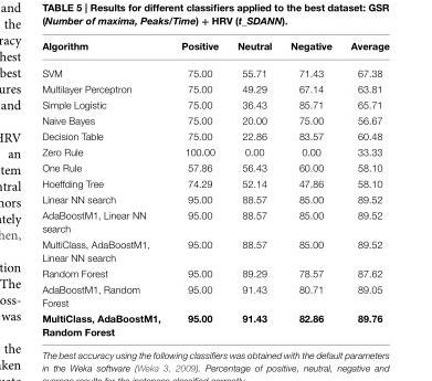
<table><thead><tr><td>Algorithm</td><td>Positive</td><td>Neutral</td><td>Negative</td><td>Average</td></tr></thead><tbody><tr><td>SVM</td><td>75.00</td><td>55.71</td><td>71.43</td><td>67.38</td></tr><tr><td>Multilayer Perceptron</td><td>75.00</td><td>49.29</td><td>67.14</td><td>63.81</td></tr><tr><td>Simple Logistic</td><td>75.00</td><td>36.43</td><td>85.71</td><td>65.71</td></tr><tr><td>Naive Bayes</td><td>75.00</td><td>20.00</td><td>75.00</td><td>56.67</td></tr><tr><td>Decision Table</td><td>75.00</td><td>22.86</td><td>83.57</td><td>60.48</td></tr><tr><td>Zero Rule</td><td>100.00</td><td>0.00</td><td>0.00</td><td>33.33</td></tr><tr><td>One Rule</td><td>57.86</td><td>56.43</td><td>60.00</td><td>58.10</td></tr><tr><td>Hoeffding Tree</td><td>74.29</td><td>52.14</td><td>47.86</td><td>58.10</td></tr><tr><td>Linear NN search</td><td>95.00</td><td>88.57</td><td>85.00</td><td>89.52</td></tr><tr><td>AdaBoostM1, Linear NN search</td><td>95.00</td><td>88.57</td><td>85.00</td><td>89.52</td></tr><tr><td>MultiClass, AdaBoostM1, Linear NN search</td><td>95.00</td><td>88.57</td><td>85.00</td><td>89.52</td></tr><tr><td>Random Forest</td><td>95.00</td><td>89.29</td><td>78.57</td><td>87.62</td></tr><tr><td>AdaBoostM1, Random Forest</td><td>95.00</td><td>91.43</td><td>80.71</td><td>89.05</td></tr><tr><td>MultiClass, AdaBoostM1, Random Forest</td><td>95.00</td><td>91.43</td><td>82.86</td><td>89.76</td></tr></tbody></table>